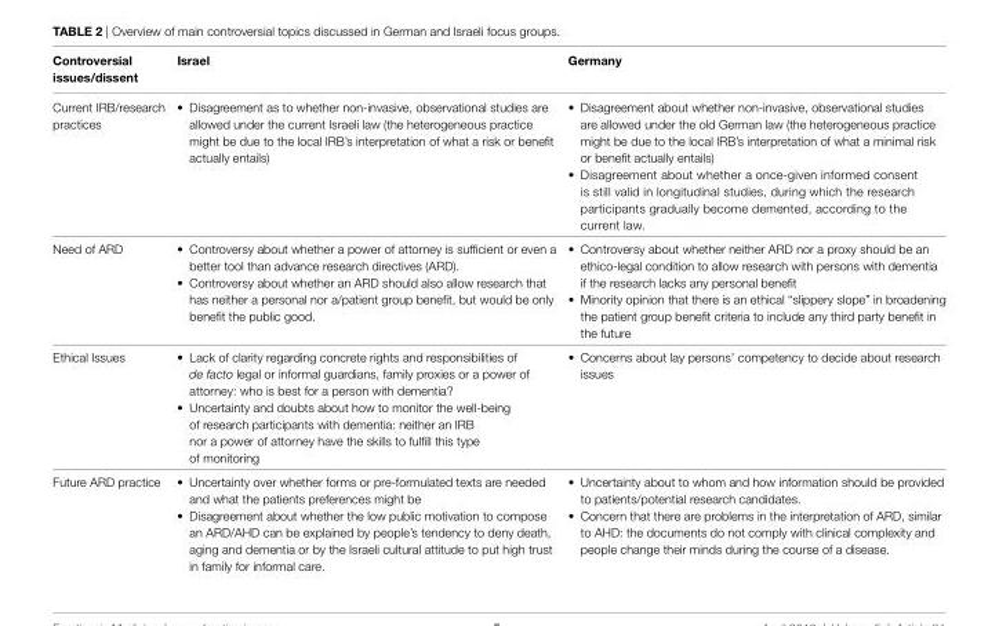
<table><thead><tr><td>controversial issues/dissent</td><td>israel</td><td>germany</td></tr></thead><tbody><tr><td>Current IRB/research practices</td><td>• Disagreement as to whether non-invasive, observational studies are allowed under the current Israeli law (the heterogeneous practice might be due to the local IRB’s interpretation of what a risk or benefit actually entails)</td><td>• Disagreement about whether non-invasive, observational studies are allowed under the old German law (the heterogeneous practice might be due to the local IRB’s interpretation of what a minimal risk or benefit actually entails) • Disagreement about whether a once-given informed consent is still valid in longitudinal studies, during which the research participants gradually become demented, according to the current law.</td></tr><tr><td>Need of ARD</td><td>• Controversy about whether a power of attorney is sufficient or even a better tool than advance research directives (ARD). • Controversy about whether an ARD should also allow research that has neither a personal nor a/patient group benefit, but would be only benefit the public good.</td><td>• Controversy about whether neither ARD nor a proxy should be an ethico-legal condition to allow research with persons with dementia if the research lacks any personal benefit • Minority opinion that there is an ethical “slippery slope” in broadening the patient group benefit criteria to include any third party benefit in the future</td></tr><tr><td>Ethical Issues</td><td>• Lack of clarity regarding concrete rights and responsibilities of de facto legal or informal guardians, family proxies or a power of attorney: who is best for a person with dementia? • Uncertainty and doubts about how to monitor the well-being of research participants with dementia: neither an IRB nor a power of attorney have the skills to fulfill this type of monitoring</td><td>• Concerns about lay persons’ competency to decide about research issues</td></tr><tr><td>Future ARD practice</td><td>• Uncertainty over whether forms or pre-formulated texts are needed and what the patients preferences might be • Disagreement about whether the low public motivation to compose an ARD/AHD can be explained by people’s tendency to deny death, aging and dementia or by the Israeli cultural attitude to put high trust in family for informal care.</td><td>• Uncertainty about to whom and how information should be provided to patients/potential research candidates. • Concern that there are problems in the interpretation of ARD, similar to AHD: the documents do not comply with clinical complexity and people change their minds during the course of a disease.</td></tr></tbody></table>